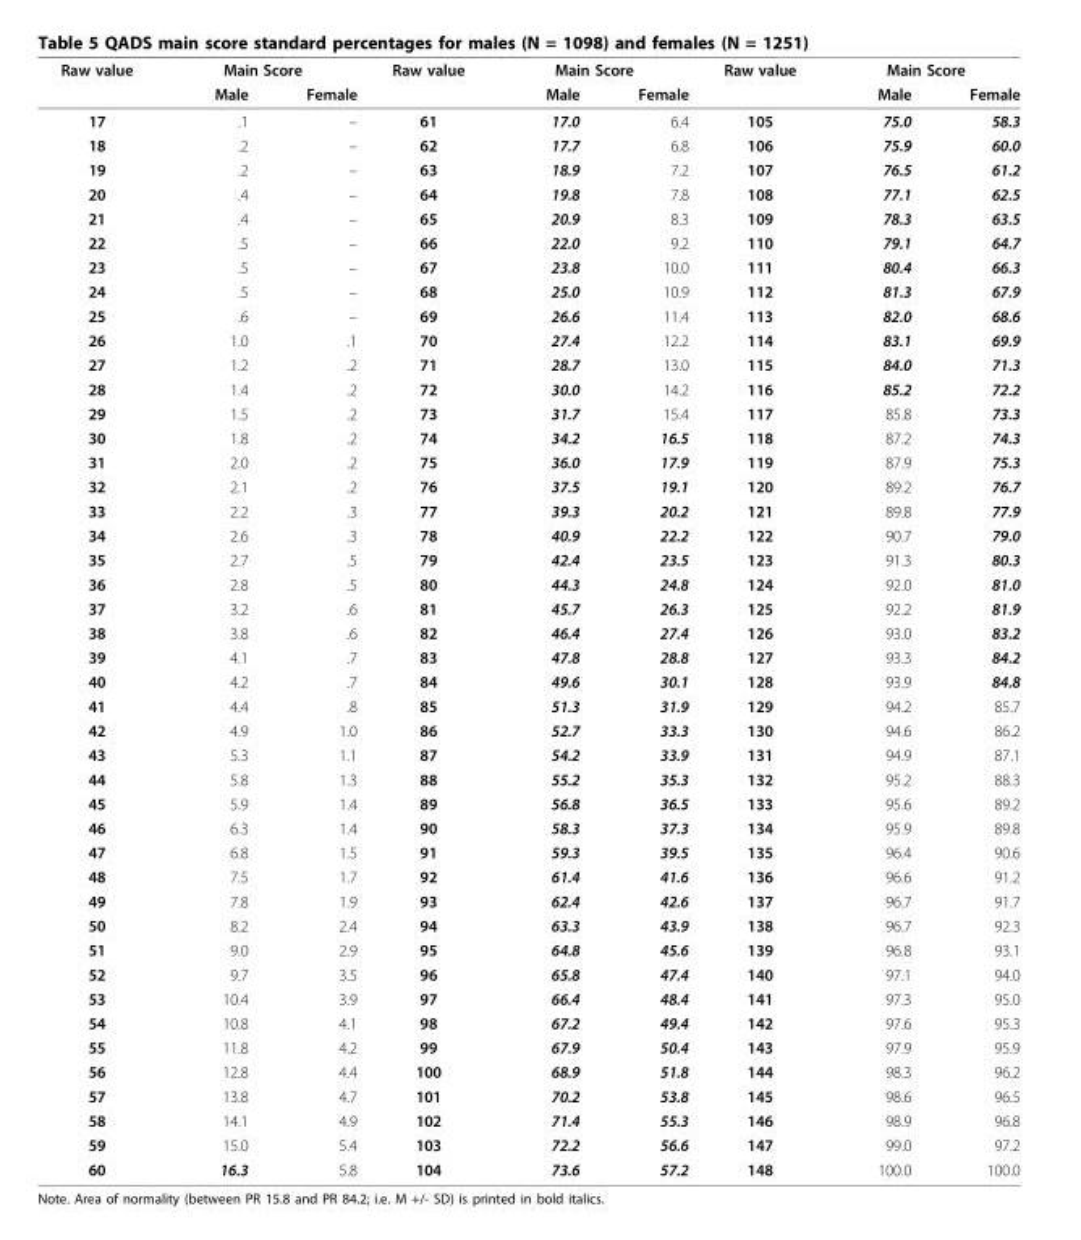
<table><thead><tr><td rowspan="2">Raw value</td><td colspan="2">Main Score</td><td rowspan="2">Raw value</td><td colspan="2">Main Score</td><td rowspan="2">Raw value</td><td colspan="2">Main Score</td></tr><tr><td>Male</td><td>Female</td><td>Male</td><td>Female</td><td>Male</td><td>Female</td></tr></thead><tbody><tr><td>17</td><td>.1</td><td>–</td><td>61</td><td>17.0</td><td>6.4</td><td>105</td><td>75.0</td><td>58.3</td></tr><tr><td>18</td><td>.2</td><td>–</td><td>62</td><td>17.7</td><td>6.8</td><td>106</td><td>75.9</td><td>60.0</td></tr><tr><td>19</td><td>.2</td><td>–</td><td>63</td><td>18.9</td><td>7.2</td><td>107</td><td>76.5</td><td>61.2</td></tr><tr><td>20</td><td>.4</td><td>–</td><td>64</td><td>19.8</td><td>7.8</td><td>108</td><td>77.1</td><td>62.5</td></tr><tr><td>21</td><td>.4</td><td>–</td><td>65</td><td>20.9</td><td>8.3</td><td>109</td><td>78.3</td><td>63.5</td></tr><tr><td>22</td><td>.5</td><td>–</td><td>66</td><td>22.0</td><td>9.2</td><td>110</td><td>79.1</td><td>64.7</td></tr><tr><td>23</td><td>.5</td><td>–</td><td>67</td><td>23.8</td><td>10.0</td><td>111</td><td>80.4</td><td>66.3</td></tr><tr><td>24</td><td>.5</td><td>–</td><td>68</td><td>25.0</td><td>10.9</td><td>112</td><td>81.3</td><td>67.9</td></tr><tr><td>25</td><td>.6</td><td>–</td><td>69</td><td>26.6</td><td>11.4</td><td>113</td><td>82.0</td><td>68.6</td></tr><tr><td>26</td><td>1.0</td><td>.1</td><td>70</td><td>27.4</td><td>12.2</td><td>114</td><td>83.1</td><td>69.9</td></tr><tr><td>27</td><td>1.2</td><td>.2</td><td>71</td><td>28.7</td><td>13.0</td><td>115</td><td>84.0</td><td>71.3</td></tr><tr><td>28</td><td>1.4</td><td>.2</td><td>72</td><td>30.0</td><td>14.2</td><td>116</td><td>85.2</td><td>72.2</td></tr><tr><td>29</td><td>1.5</td><td>.2</td><td>73</td><td>31.7</td><td>15.4</td><td>117</td><td>85.8</td><td>73.3</td></tr><tr><td>30</td><td>1.8</td><td>.2</td><td>74</td><td>34.2</td><td>16.5</td><td>118</td><td>87.2</td><td>74.3</td></tr><tr><td>31</td><td>2.0</td><td>.2</td><td>75</td><td>36.0</td><td>17.9</td><td>119</td><td>87.9</td><td>75.3</td></tr><tr><td>32</td><td>2.1</td><td>.2</td><td>76</td><td>37.5</td><td>19.1</td><td>120</td><td>89.2</td><td>76.7</td></tr><tr><td>33</td><td>2.2</td><td>.3</td><td>77</td><td>39.3</td><td>20.2</td><td>121</td><td>89.8</td><td>77.9</td></tr><tr><td>34</td><td>2.6</td><td>.3</td><td>78</td><td>40.9</td><td>22.2</td><td>122</td><td>90.7</td><td>79.0</td></tr><tr><td>35</td><td>2.7</td><td>.5</td><td>79</td><td>42.4</td><td>23.5</td><td>123</td><td>91.3</td><td>80.3</td></tr><tr><td>36</td><td>2.8</td><td>.5</td><td>80</td><td>44.3</td><td>24.8</td><td>124</td><td>92.0</td><td>81.0</td></tr><tr><td>37</td><td>3.2</td><td>.6</td><td>81</td><td>45.7</td><td>26.3</td><td>125</td><td>92.2</td><td>81.9</td></tr><tr><td>38</td><td>3.8</td><td>.6</td><td>82</td><td>46.4</td><td>27.4</td><td>126</td><td>93.0</td><td>83.2</td></tr><tr><td>39</td><td>4.1</td><td>.7</td><td>83</td><td>47.8</td><td>28.8</td><td>127</td><td>93.3</td><td>84.2</td></tr><tr><td>40</td><td>4.2</td><td>.7</td><td>84</td><td>49.6</td><td>30.1</td><td>128</td><td>93.9</td><td>84.8</td></tr><tr><td>41</td><td>4.4</td><td>.8</td><td>85</td><td>51.3</td><td>31.9</td><td>129</td><td>94.2</td><td>85.7</td></tr><tr><td>42</td><td>4.9</td><td>1.0</td><td>86</td><td>52.7</td><td>33.3</td><td>130</td><td>94.6</td><td>86.2</td></tr><tr><td>43</td><td>5.3</td><td>1.1</td><td>87</td><td>54.2</td><td>33.9</td><td>131</td><td>94.9</td><td>87.1</td></tr><tr><td>44</td><td>5.8</td><td>1.3</td><td>88</td><td>55.2</td><td>35.3</td><td>132</td><td>95.2</td><td>88.3</td></tr><tr><td>45</td><td>5.9</td><td>1.4</td><td>89</td><td>56.8</td><td>36.5</td><td>133</td><td>95.6</td><td>89.2</td></tr><tr><td>46</td><td>6.3</td><td>1.4</td><td>90</td><td>58.3</td><td>37.3</td><td>134</td><td>95.9</td><td>89.8</td></tr><tr><td>47</td><td>6.8</td><td>1.5</td><td>91</td><td>59.3</td><td>39.5</td><td>135</td><td>96.4</td><td>90.6</td></tr><tr><td>48</td><td>7.5</td><td>1.7</td><td>92</td><td>61.4</td><td>41.6</td><td>136</td><td>96.6</td><td>91.2</td></tr><tr><td>49</td><td>7.8</td><td>1.9</td><td>93</td><td>62.4</td><td>42.6</td><td>137</td><td>96.7</td><td>91.7</td></tr><tr><td>50</td><td>8.2</td><td>2.4</td><td>94</td><td>63.3</td><td>43.9</td><td>138</td><td>96.7</td><td>92.3</td></tr><tr><td>51</td><td>9.0</td><td>2.9</td><td>95</td><td>64.8</td><td>45.6</td><td>139</td><td>96.8</td><td>93.1</td></tr><tr><td>52</td><td>9.7</td><td>3.5</td><td>96</td><td>65.8</td><td>47.4</td><td>140</td><td>97.1</td><td>94.0</td></tr><tr><td>53</td><td>10.4</td><td>3.9</td><td>97</td><td>66.4</td><td>48.4</td><td>141</td><td>97.3</td><td>95.0</td></tr><tr><td>54</td><td>10.8</td><td>4.1</td><td>98</td><td>67.2</td><td>49.4</td><td>142</td><td>97.6</td><td>95.3</td></tr><tr><td>55</td><td>11.8</td><td>4.2</td><td>99</td><td>67.9</td><td>50.4</td><td>143</td><td>97.9</td><td>95.9</td></tr><tr><td>56</td><td>12.8</td><td>4.4</td><td>100</td><td>68.9</td><td>51.8</td><td>144</td><td>98.3</td><td>96.2</td></tr><tr><td>57</td><td>13.8</td><td>4.7</td><td>101</td><td>70.2</td><td>53.8</td><td>145</td><td>98.6</td><td>96.5</td></tr><tr><td>58</td><td>14.1</td><td>4.9</td><td>102</td><td>71.4</td><td>55.3</td><td>146</td><td>98.9</td><td>96.8</td></tr><tr><td>59</td><td>15.0</td><td>5.4</td><td>103</td><td>72.2</td><td>56.6</td><td>147</td><td>99.0</td><td>97.2</td></tr><tr><td>60</td><td>16.3</td><td>5.8</td><td>104</td><td>73.6</td><td>57.2</td><td>148</td><td>100.0</td><td>100.0</td></tr></tbody></table>